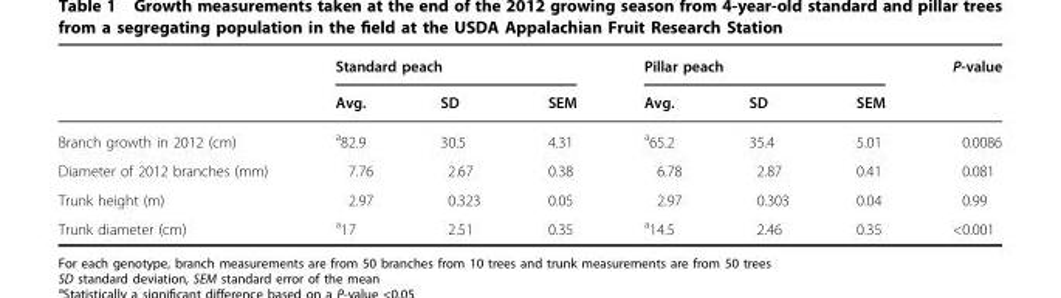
<table><thead><tr><td rowspan="2"></td><td colspan="3">Standard peach</td><td colspan="3">Pillar peach</td><td rowspan="2">P-value</td></tr><tr><td>Avg.</td><td>SD</td><td>SEM</td><td>Avg.</td><td>SD</td><td>SEM</td></tr></thead><tbody><tr><td>Branch growth in 2012 (cm)</td><td><sup>a</sup>82.9</td><td>30.5</td><td>4.31</td><td><sup>a</sup>65.2</td><td>35.4</td><td>5.01</td><td>0.0086</td></tr><tr><td>Diameter of 2012 branches (mm)</td><td>7.76</td><td>2.67</td><td>0.38</td><td>6.78</td><td>2.87</td><td>0.41</td><td>0.081</td></tr><tr><td>Trunk height (m)</td><td>2.97</td><td>0.323</td><td>0.05</td><td>2.97</td><td>0.303</td><td>0.04</td><td>0.99</td></tr><tr><td>Trunk diameter (cm)</td><td><sup>a</sup>17</td><td>2.51</td><td>0.35</td><td><sup>a</sup>14.5</td><td>2.46</td><td>0.35</td><td>&lt;0.001</td></tr></tbody></table>